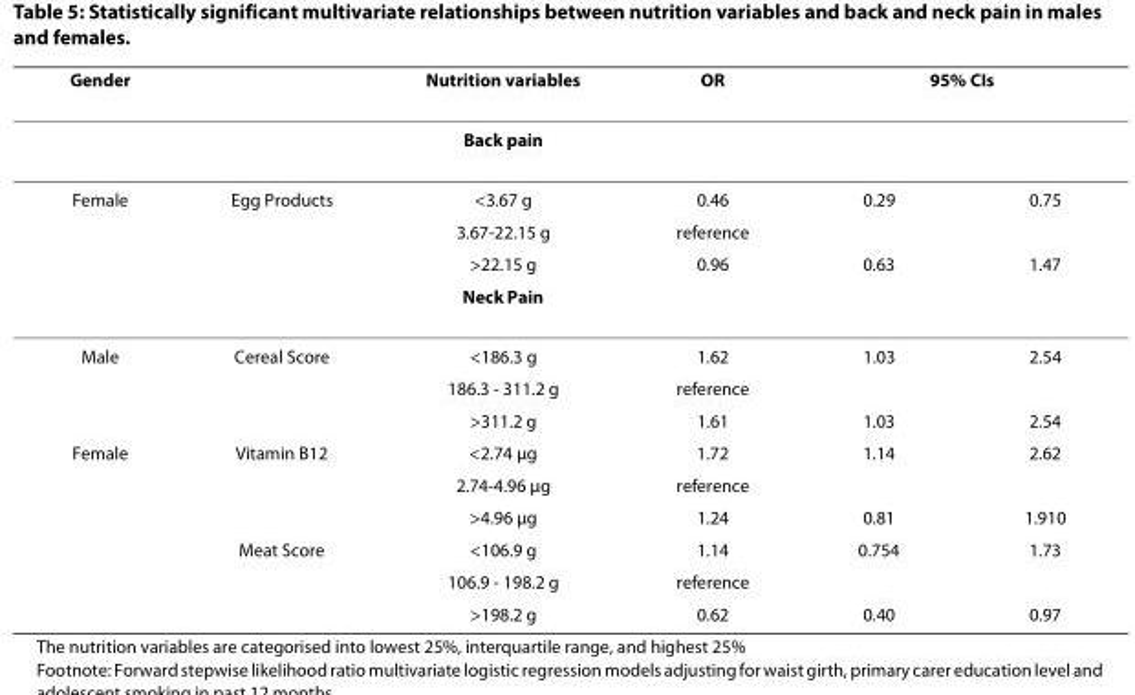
<table><thead><tr><td rowspan="2">Gender</td><td rowspan="2"></td><td rowspan="2">Nutrition variables Back pain</td><td rowspan="2">OR</td><td colspan="2">95% CIs</td></tr><tr><td></td><td></td></tr></thead><tbody><tr><td rowspan="4">Female</td><td>Egg Products</td><td>&lt;3.67 g</td><td>0.46</td><td>0.29</td><td>0.75</td></tr><tr><td></td><td>3.67-22.15 g</td><td>reference</td><td></td><td></td></tr><tr><td></td><td>&gt;22.15 g</td><td>0.96</td><td>0.63</td><td>1.47</td></tr><tr><td></td><td>Neck Pain</td><td></td><td></td><td></td></tr><tr><td rowspan="3">Male</td><td>Cereal Score</td><td>&lt;186.3 g</td><td>1.62</td><td>1.03</td><td>2.54</td></tr><tr><td></td><td>186.3 - 311.2 g</td><td>reference</td><td></td><td></td></tr><tr><td></td><td>&gt;311.2 g</td><td>1.61</td><td>1.03</td><td>2.54</td></tr><tr><td rowspan="6">Female</td><td>Vitamin B12</td><td>&lt;2.74 μg</td><td>1.72</td><td>1.14</td><td>2.62</td></tr><tr><td></td><td>2.74-4.96 μg</td><td>reference</td><td></td><td></td></tr><tr><td></td><td>&gt;4.96 μg</td><td>1.24</td><td>0.81</td><td>1.910</td></tr><tr><td>Meat Score</td><td>&lt;106.9 g</td><td>1.14</td><td>0.754</td><td>1.73</td></tr><tr><td></td><td>106.9 - 198.2 g</td><td>reference</td><td></td><td></td></tr><tr><td></td><td>&gt;198.2 g</td><td>0.62</td><td>0.40</td><td>0.97</td></tr></tbody></table>